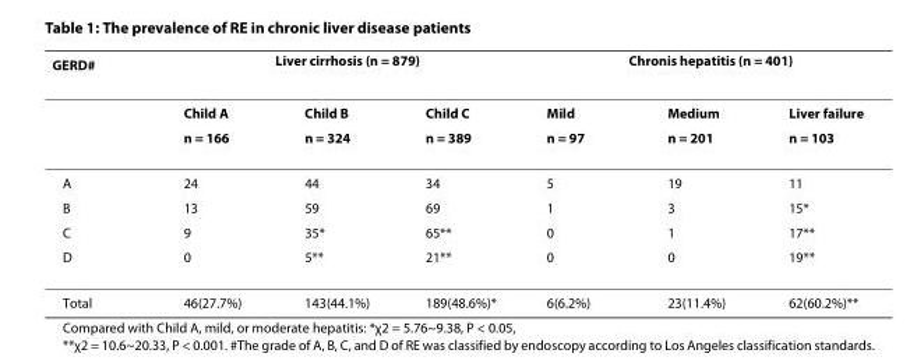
<table><thead><tr><td rowspan="2">GERD<sup>#</sup></td><td colspan="3">Liver cirrhosis (n = 879)</td><td colspan="3">Chronis hepatitis (n = 401)</td></tr><tr><td>Child A</td><td>Child B</td><td>Child C</td><td>Mild</td><td>Medium</td><td>Liver failure</td></tr></thead><tbody><tr><td></td><td>n = 166</td><td>n = 324</td><td>n = 389</td><td>n = 97</td><td>n = 201</td><td>n = 103</td></tr><tr><td>A</td><td>24</td><td>44</td><td>34</td><td>5</td><td>19</td><td>11</td></tr><tr><td>B</td><td>13</td><td>59</td><td>69</td><td>1</td><td>3</td><td>15*</td></tr><tr><td>C</td><td>9</td><td>35*</td><td>65**</td><td>0</td><td>1</td><td>17**</td></tr><tr><td>D</td><td>0</td><td>5**</td><td>21**</td><td>0</td><td>0</td><td>19**</td></tr><tr><td>Total</td><td>46(27.7%)</td><td>143(44.1%)</td><td>189(48.6%)*</td><td>6(6.2%)</td><td>23(11.4%)</td><td>62(60.2%)**</td></tr></tbody></table>